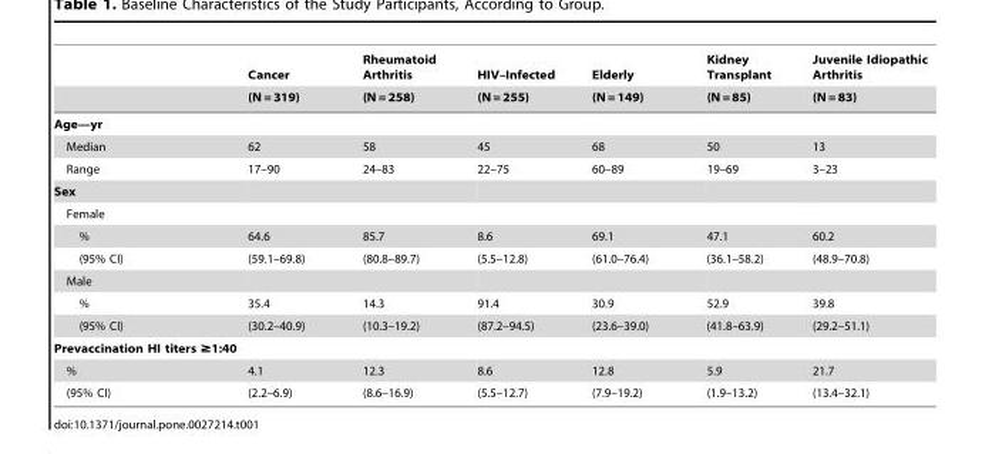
<table><thead><tr><td rowspan="2"></td><td rowspan="2">Cancer (N = 319)</td><td rowspan="2">Rheumatoid Arthritis (N = 258)</td><td rowspan="2">HIV–Infected (N = 255)</td><td rowspan="2">Elderly (N = 149)</td><td rowspan="2">Kidney Transplant (N = 85)</td><td rowspan="2">Juvenile Idiopathic Arthritis (N = 83)</td></tr><tr></tr></thead><tbody><tr><td colspan="7">Age—yr</td></tr><tr><td>Median</td><td>62</td><td>58</td><td>45</td><td>68</td><td>50</td><td>13</td></tr><tr><td>Range</td><td>17–90</td><td>24–83</td><td>22–75</td><td>60–89</td><td>19–69</td><td>3–23</td></tr><tr><td colspan="7">Sex</td></tr><tr><td colspan="7">Female</td></tr><tr><td>%</td><td>64.6</td><td>85.7</td><td>8.6</td><td>69.1</td><td>47.1</td><td>60.2</td></tr><tr><td>(95% CI)</td><td>(59.1–69.8)</td><td>(80.8–89.7)</td><td>(5.5–12.8)</td><td>(61.0–76.4)</td><td>(36.1–58.2)</td><td>(48.9–70.8)</td></tr><tr><td colspan="7">Male</td></tr><tr><td>%</td><td>35.4</td><td>14.3</td><td>91.4</td><td>30.9</td><td>52.9</td><td>39.8</td></tr><tr><td>(95% CI)</td><td>(30.2–40.9)</td><td>(10.3–19.2)</td><td>(87.2–94.5)</td><td>(23.6–39.0)</td><td>(41.8–63.9)</td><td>(29.2–51.1)</td></tr><tr><td colspan="7">Prevaccination HI titers ≥1:40</td></tr><tr><td>%</td><td>4.1</td><td>12.3</td><td>8.6</td><td>12.8</td><td>5.9</td><td>21.7</td></tr><tr><td>(95% CI)</td><td>(2.2–6.9)</td><td>(8.6–16.9)</td><td>(5.5–12.7)</td><td>(7.9–19.2)</td><td>(1.9–13.2)</td><td>(13.4–32.1)</td></tr></tbody></table>